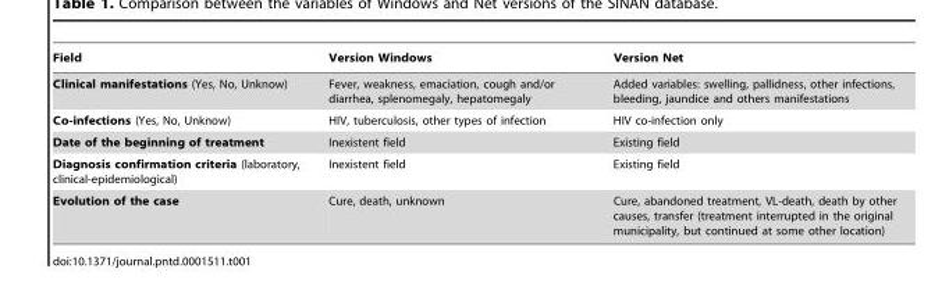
<table><thead><tr><td>Field</td><td>Version Windows</td><td>Version Net</td></tr></thead><tbody><tr><td>Clinical manifestations (Yes, No, Unknow)</td><td>Fever, weakness, emaciation, cough and/or diarrhea, splenomegaly, hepatomegaly</td><td>Added variables: swelling, pallidness, other infections, bleeding, jaundice and others manifestations</td></tr><tr><td>Co-infections (Yes, No, Unknow)</td><td>HIV, tuberculosis, other types of infection</td><td>HIV co-infection only</td></tr><tr><td>Date of the beginning of treatment</td><td>Inexistent field</td><td>Existing field</td></tr><tr><td>Diagnosis confirmation criteria (laboratory, clinical-epidemiological)</td><td>Inexistent field</td><td>Existing field</td></tr><tr><td>Evolution of the case</td><td>Cure, death, unknown</td><td>Cure, abandoned treatment, VL-death, death by other causes, transfer (treatment interrupted in the original municipality, but continued at some other location)</td></tr></tbody></table>